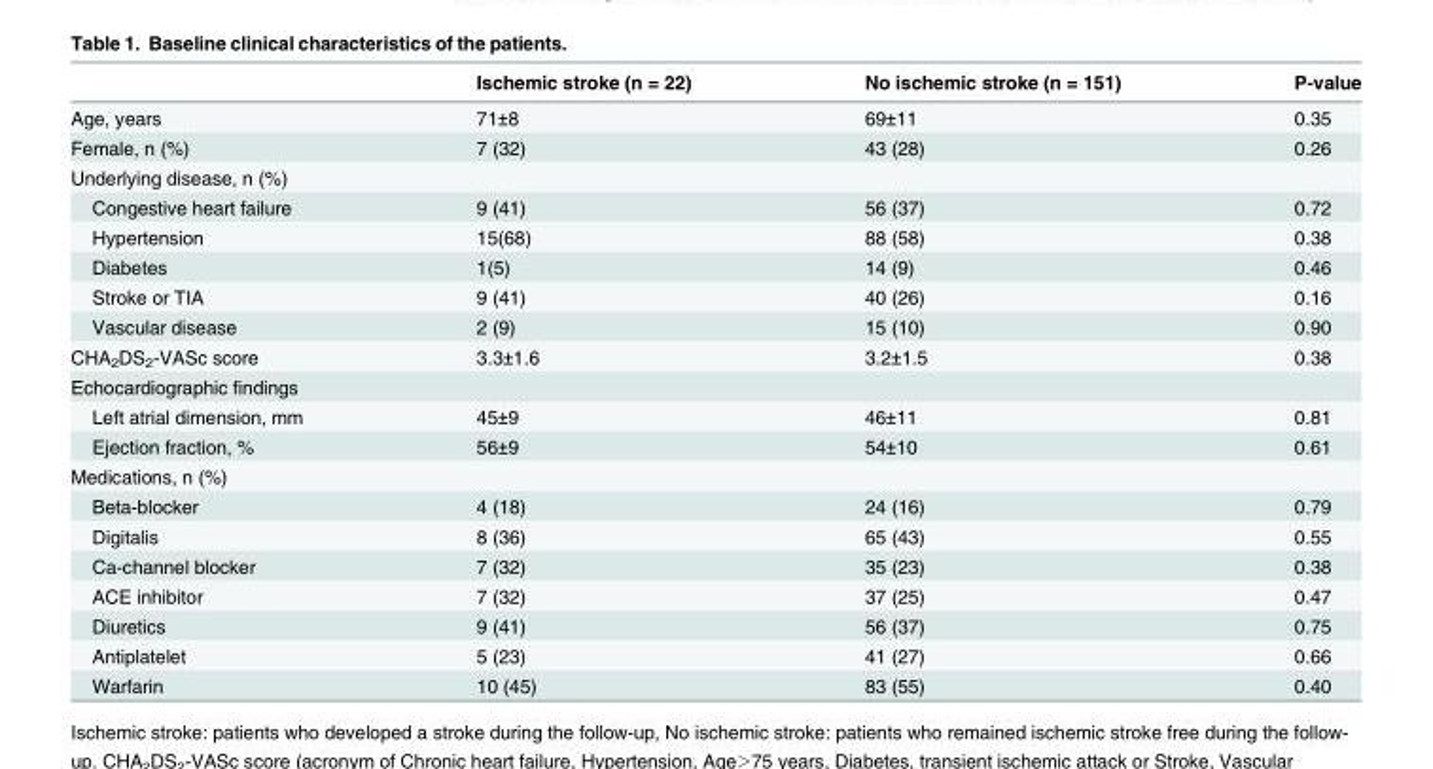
<table><thead><tr><td></td><td>Ischemic stroke (n = 22)</td><td>No ischemic stroke (n = 151)</td><td>P-value</td></tr></thead><tbody><tr><td>Age, years</td><td>71±8</td><td>69±11</td><td>0.35</td></tr><tr><td>Female, n (%)</td><td>7 (32)</td><td>43 (28)</td><td>0.26</td></tr><tr><td colspan="4">Underlying disease, n (%)</td></tr><tr><td>Congestive heart failure</td><td>9 (41)</td><td>56 (37)</td><td>0.72</td></tr><tr><td>Hypertension</td><td>15(68)</td><td>88 (58)</td><td>0.38</td></tr><tr><td>Diabetes</td><td>1(5)</td><td>14 (9)</td><td>0.46</td></tr><tr><td>Stroke or TIA</td><td>9 (41)</td><td>40 (26)</td><td>0.16</td></tr><tr><td>Vascular disease</td><td>2 (9)</td><td>15 (10)</td><td>0.90</td></tr><tr><td>CHA<sub>2</sub>DS<sub>2</sub>-VASc score</td><td>3.3±1.6</td><td>3.2±1.5</td><td>0.38</td></tr><tr><td colspan="4">Echocardiographic findings</td></tr><tr><td>Left atrial dimension, mm</td><td>45±9</td><td>46±11</td><td>0.81</td></tr><tr><td>Ejection fraction, %</td><td>56±9</td><td>54±10</td><td>0.61</td></tr><tr><td colspan="4">Medications, n (%)</td></tr><tr><td>Beta-blocker</td><td>4 (18)</td><td>24 (16)</td><td>0.79</td></tr><tr><td>Digitalis</td><td>8 (36)</td><td>65 (43)</td><td>0.55</td></tr><tr><td>Ca-channel blocker</td><td>7 (32)</td><td>35 (23)</td><td>0.38</td></tr><tr><td>ACE inhibitor</td><td>7 (32)</td><td>37 (25)</td><td>0.47</td></tr><tr><td>Diuretics</td><td>9 (41)</td><td>56 (37)</td><td>0.75</td></tr><tr><td>Antiplatelet</td><td>5 (23)</td><td>41 (27)</td><td>0.66</td></tr><tr><td>Warfarin</td><td>10 (45)</td><td>83 (55)</td><td>0.40</td></tr></tbody></table>